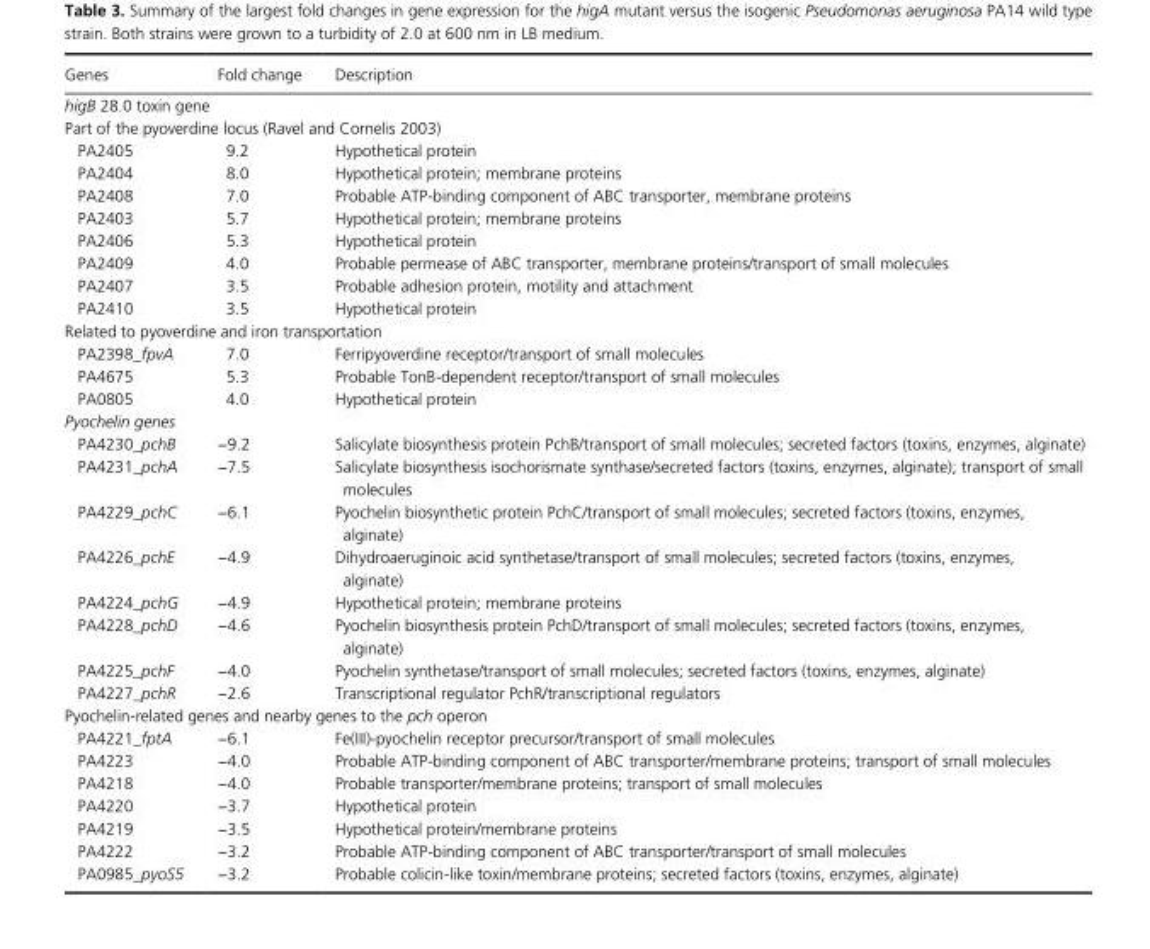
<table><thead><tr><td>Genes</td><td>Fold change</td><td>Description</td></tr></thead><tbody><tr><td colspan="3">higB 28.0 toxin gene</td></tr><tr><td colspan="3">Part of the pyoverdine locus (Ravel and Cornelis 2003)</td></tr><tr><td>PA2405</td><td>9.2</td><td>Hypothetical protein</td></tr><tr><td>PA2404</td><td>8.0</td><td>Hypothetical protein; membrane proteins</td></tr><tr><td>PA2408</td><td>7.0</td><td>Probable ATP- binding component of ABC transporter, membrane proteins</td></tr><tr><td>PA2403</td><td>5.7</td><td>Hypothetical protein; membrane proteins</td></tr><tr><td>PA2406</td><td>5.3</td><td>Hypothetical protein</td></tr><tr><td>PA2409</td><td>4.0</td><td>Probable permease of ABC transporter, membrane proteins/transport of small molecules</td></tr><tr><td>PA2407</td><td>3.5</td><td>Probable adhesion protein, motility and attachment</td></tr><tr><td>PA2410</td><td>3.5</td><td>Hypothetical protein</td></tr><tr><td colspan="3">Related to pyoverdine and iron transportation</td></tr><tr><td>PA2398_fpvA</td><td>7.0</td><td>Ferripyoverdine receptor/transport of small molecules</td></tr><tr><td>PA4675</td><td>5.3</td><td>Probable TonB- dependent receptor/transport of small molecules</td></tr><tr><td>PA0805</td><td>4.0</td><td>Hypothetical protein</td></tr><tr><td colspan="3">Pyochelin genes</td></tr><tr><td>PA4230_pchB</td><td>−9.2</td><td>Salicylate biosynthesis protein PchB/transport of small molecules; secreted factors (toxins, enzymes, alginate)</td></tr><tr><td>PA4231_pchA</td><td>−7.5</td><td>Salicylate biosynthesis isochorismate synthase/secreted factors (toxins, enzymes, alginate); transport of small molecules</td></tr><tr><td>PA4229_pchC</td><td>−6.1</td><td>Pyochelin biosynthetic protein PchC/transport of small molecules; secreted factors (toxins, enzymes, alginate)</td></tr><tr><td>PA4226_pchE</td><td>−4.9</td><td>Dihydroaeruginoic acid synthetase/transport of small molecules; secreted factors (toxins, enzymes, alginate)</td></tr><tr><td>PA4224_pchG</td><td>−4.9</td><td>Hypothetical protein; membrane proteins</td></tr><tr><td>PA4228_pchD</td><td>−4.6</td><td>Pyochelin biosynthesis protein PchD/transport of small molecules; secreted factors (toxins, enzymes, alginate)</td></tr><tr><td>PA4225_pchF</td><td>−4.0</td><td>Pyochelin synthetase/transport of small molecules; secreted factors (toxins, enzymes, alginate)</td></tr><tr><td>PA4227_pchR</td><td>−2.6</td><td>Transcriptional regulator PchR/transcriptional regulators</td></tr><tr><td colspan="3">Pyochelin- related genes and nearby genes to the pch operon</td></tr><tr><td>PA4221_fptA</td><td>−6.1</td><td>Fe(III)- pyochelin receptor precursor/transport of small molecules</td></tr><tr><td>PA4223</td><td>−4.0</td><td>Probable ATP- binding component of ABC transporter/membrane proteins; transport of small molecules</td></tr><tr><td>PA4218</td><td>−4.0</td><td>Probable transporter/membrane proteins; transport of small molecules</td></tr><tr><td>PA4220</td><td>−3.7</td><td>Hypothetical protein</td></tr><tr><td>PA4219</td><td>−3.5</td><td>Hypothetical protein/membrane proteins</td></tr><tr><td>PA4222</td><td>−3.2</td><td>Probable ATP- binding component of ABC transporter/transport of small molecules</td></tr><tr><td>PA0985_pyoS5</td><td>−3.2</td><td>Probable colicin- like toxin/membrane proteins; secreted factors (toxins, enzymes, alginate)</td></tr></tbody></table>